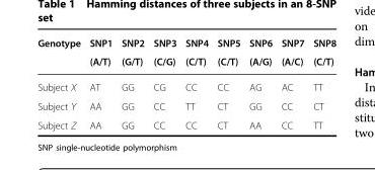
<table><thead><tr><td rowspan="2">Genotype</td><td rowspan="2">SNP1 (A/T)</td><td rowspan="2">SNP2 (G/T)</td><td rowspan="2">SNP3 (C/G)</td><td rowspan="2">SNP4 (C/T)</td><td rowspan="2">SNP5 (C/T)</td><td rowspan="2">SNP6 (A/G)</td><td rowspan="2">SNP7 (A/C)</td><td rowspan="2">SNP8 (C/T)</td></tr><tr></tr></thead><tbody><tr><td>Subject X</td><td>AT</td><td>GG</td><td>CG</td><td>CC</td><td>CC</td><td>AG</td><td>AC</td><td>TT</td></tr><tr><td>Subject Y</td><td>AA</td><td>GG</td><td>CC</td><td>TT</td><td>CT</td><td>GG</td><td>CC</td><td>CT</td></tr><tr><td>Subject Z</td><td>AA</td><td>GG</td><td>CC</td><td>CC</td><td>CT</td><td>AA</td><td>CC</td><td>TT</td></tr></tbody></table>